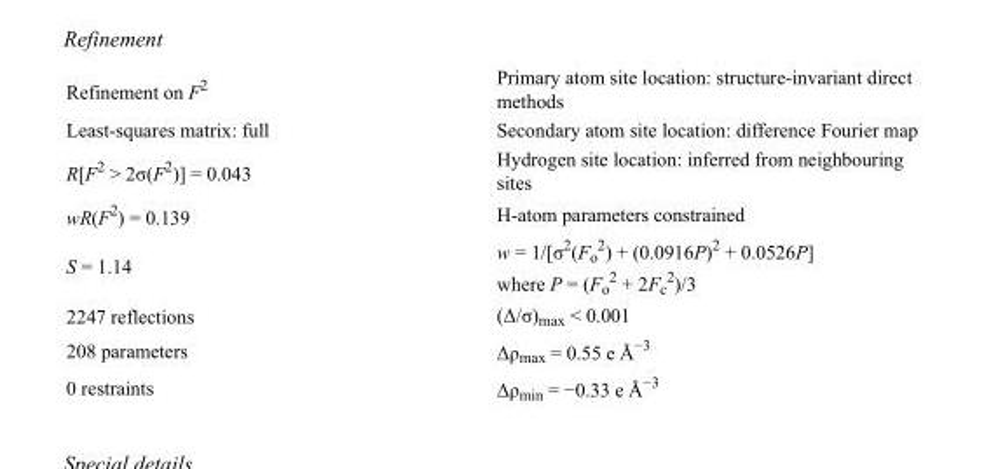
<table><tbody><tr><td>Refinement on F<sup>2</sup></td><td>Primary atom site location: structure-invariant direct methods</td></tr><tr><td>Least-squares matrix: full</td><td>Secondary atom site location: difference Fourier map</td></tr><tr><td>R[F<sup>2</sup> &gt; 2σ(F<sup>2</sup>)] = 0.043</td><td>Hydrogen site location: inferred from neighbouring sites</td></tr><tr><td>wR(F<sup>2</sup>) = 0.139</td><td>H-atom parameters constrained</td></tr><tr><td>S = 1.14</td><td>w = 1/[σ<sup>2</sup>(F<sub>o</sub> <sup>2</sup>) + (0.0916P)<sup>2</sup> + 0.0526P] where P = (F<sub>o</sub> <sup>2</sup> + 2F<sub>c</sub> <sup>2</sup>)/3</td></tr><tr><td>2247 reflections</td><td>(Δ/σ)<sub>max</sub> &lt; 0.001</td></tr><tr><td>208 parameters</td><td>Δρ<sub>max</sub> = 0.55 e Å<sup>−3</sup></td></tr><tr><td>0 restraints</td><td>Δρ<sub>min</sub> = −0.33 e Å<sup>−3</sup></td></tr></tbody></table>